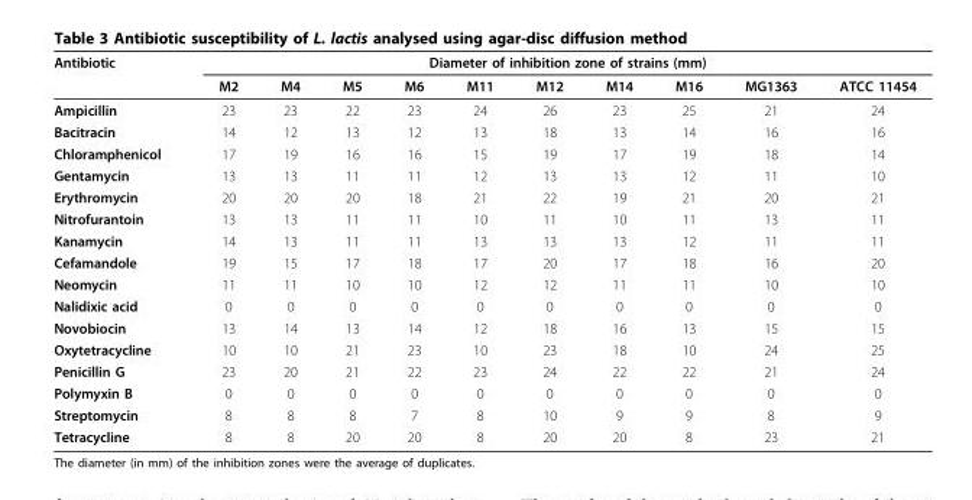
<table><thead><tr><td rowspan="2">Antibiotic</td><td colspan="10">Diameter of inhibition zone of strains (mm)</td></tr><tr><td>M2</td><td>M4</td><td>M5</td><td>M6</td><td>M11</td><td>M12</td><td>M14</td><td>M16</td><td>MG1363</td><td>ATCC 11454</td></tr></thead><tbody><tr><td>Ampicillin</td><td>23</td><td>23</td><td>22</td><td>23</td><td>24</td><td>26</td><td>23</td><td>25</td><td>21</td><td>24</td></tr><tr><td>Bacitracin</td><td>14</td><td>12</td><td>13</td><td>12</td><td>13</td><td>18</td><td>13</td><td>14</td><td>16</td><td>16</td></tr><tr><td>Chloramphenicol</td><td>17</td><td>19</td><td>16</td><td>16</td><td>15</td><td>19</td><td>17</td><td>19</td><td>18</td><td>14</td></tr><tr><td>Gentamycin</td><td>13</td><td>13</td><td>11</td><td>11</td><td>12</td><td>13</td><td>13</td><td>12</td><td>11</td><td>10</td></tr><tr><td>Erythromycin</td><td>20</td><td>20</td><td>20</td><td>18</td><td>21</td><td>22</td><td>19</td><td>21</td><td>20</td><td>21</td></tr><tr><td>Nitrofurantoin</td><td>13</td><td>13</td><td>11</td><td>11</td><td>10</td><td>11</td><td>10</td><td>11</td><td>13</td><td>11</td></tr><tr><td>Kanamycin</td><td>14</td><td>13</td><td>11</td><td>11</td><td>13</td><td>13</td><td>13</td><td>12</td><td>11</td><td>11</td></tr><tr><td>Cefamandole</td><td>19</td><td>15</td><td>17</td><td>18</td><td>17</td><td>20</td><td>17</td><td>18</td><td>16</td><td>20</td></tr><tr><td>Neomycin</td><td>11</td><td>11</td><td>10</td><td>10</td><td>12</td><td>12</td><td>11</td><td>11</td><td>10</td><td>10</td></tr><tr><td>Nalidixic acid</td><td>0</td><td>0</td><td>0</td><td>0</td><td>0</td><td>0</td><td>0</td><td>0</td><td>0</td><td>0</td></tr><tr><td>Novobiocin</td><td>13</td><td>14</td><td>13</td><td>14</td><td>12</td><td>18</td><td>16</td><td>13</td><td>15</td><td>15</td></tr><tr><td>Oxytetracycline</td><td>10</td><td>10</td><td>21</td><td>23</td><td>10</td><td>23</td><td>18</td><td>10</td><td>24</td><td>25</td></tr><tr><td>Penicillin G</td><td>23</td><td>20</td><td>21</td><td>22</td><td>23</td><td>24</td><td>22</td><td>22</td><td>21</td><td>24</td></tr><tr><td>Polymyxin B</td><td>0</td><td>0</td><td>0</td><td>0</td><td>0</td><td>0</td><td>0</td><td>0</td><td>0</td><td>0</td></tr><tr><td>Streptomycin</td><td>8</td><td>8</td><td>8</td><td>7</td><td>8</td><td>10</td><td>9</td><td>9</td><td>8</td><td>9</td></tr><tr><td>Tetracycline</td><td>8</td><td>8</td><td>20</td><td>20</td><td>8</td><td>20</td><td>20</td><td>8</td><td>23</td><td>21</td></tr></tbody></table>